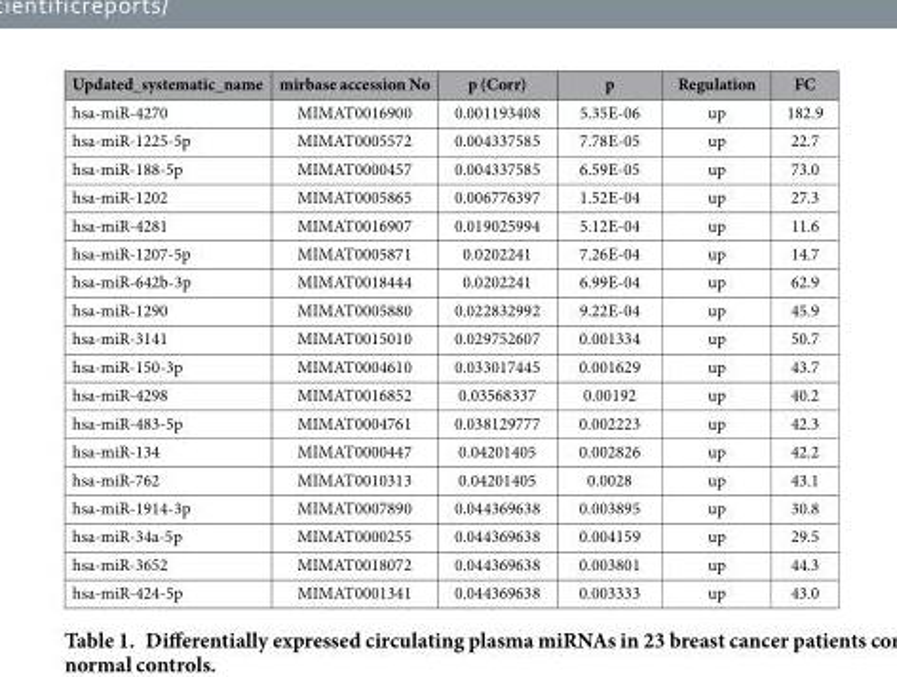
<table><thead><tr><td>Updated_systematic_name</td><td>mirbase accession No</td><td>p (Corr)</td><td>p</td><td>Regulation</td><td>FC</td></tr></thead><tbody><tr><td>hsa-miR-4270</td><td>MIMAT0016900</td><td>0.001193408</td><td>5.35E-06</td><td>up</td><td>182.9</td></tr><tr><td>hsa-miR-1225-5p</td><td>MIMAT0005572</td><td>0.004337585</td><td>7.78E-05</td><td>up</td><td>22.7</td></tr><tr><td>hsa-miR-188-5p</td><td>MIMAT0000457</td><td>0.004337585</td><td>6.59E-05</td><td>up</td><td>73.0</td></tr><tr><td>hsa-miR-1202</td><td>MIMAT0005865</td><td>0.006776397</td><td>1.52E-04</td><td>up</td><td>27.3</td></tr><tr><td>hsa-miR-4281</td><td>MIMAT0016907</td><td>0.019025994</td><td>5.12E-04</td><td>up</td><td>11.6</td></tr><tr><td>hsa-miR-1207-5p</td><td>MIMAT0005871</td><td>0.0202241</td><td>7.26E-04</td><td>up</td><td>14.7</td></tr><tr><td>hsa-miR-642b-3p</td><td>MIMAT0018444</td><td>0.0202241</td><td>6.99E-04</td><td>up</td><td>62.9</td></tr><tr><td>hsa-miR-1290</td><td>MIMAT0005880</td><td>0.022832992</td><td>9.22E-04</td><td>up</td><td>45.9</td></tr><tr><td>hsa-miR-3141</td><td>MIMAT0015010</td><td>0.029752607</td><td>0.001334</td><td>up</td><td>50.7</td></tr><tr><td>hsa-miR-150-3p</td><td>MIMAT0004610</td><td>0.033017445</td><td>0.001629</td><td>up</td><td>43.7</td></tr><tr><td>hsa-miR-4298</td><td>MIMAT0016852</td><td>0.03568337</td><td>0.00192</td><td>up</td><td>40.2</td></tr><tr><td>hsa-miR-483-5p</td><td>MIMAT0004761</td><td>0.038129777</td><td>0.002223</td><td>up</td><td>42.3</td></tr><tr><td>hsa-miR-134</td><td>MIMAT0000447</td><td>0.04201405</td><td>0.002826</td><td>up</td><td>42.2</td></tr><tr><td>hsa-miR-762</td><td>MIMAT0010313</td><td>0.04201405</td><td>0.0028</td><td>up</td><td>43.1</td></tr><tr><td>hsa-miR-1914-3p</td><td>MIMAT0007890</td><td>0.044369638</td><td>0.003895</td><td>up</td><td>30.8</td></tr><tr><td>hsa-miR-34a-5p</td><td>MIMAT0000255</td><td>0.044369638</td><td>0.004159</td><td>up</td><td>29.5</td></tr><tr><td>hsa-miR-3652</td><td>MIMAT0018072</td><td>0.044369638</td><td>0.003801</td><td>up</td><td>44.3</td></tr><tr><td>hsa-miR-424-5p</td><td>MIMAT0001341</td><td>0.044369638</td><td>0.003333</td><td>up</td><td>43.0</td></tr></tbody></table>